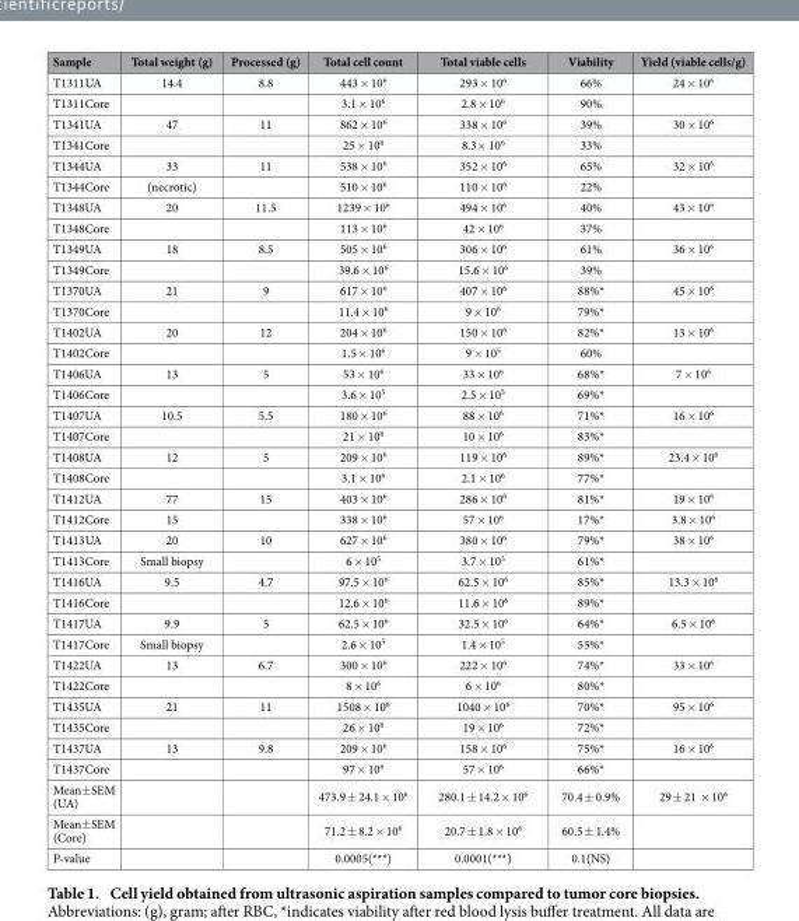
<table><thead><tr><td>Sample</td><td>Total weight (g)</td><td>Processed (g)</td><td>Total cell count</td><td>Total viable cells</td><td>Viability</td><td>Yield (viable cells/g)</td></tr></thead><tbody><tr><td>T1311UA</td><td>14.4</td><td>8.8</td><td>443 × 10<sup>6</sup></td><td>293 × 10<sup>6</sup></td><td>66%</td><td>24 × 10<sup>6</sup></td></tr><tr><td>T1311Core</td><td></td><td></td><td>3.1 × 10<sup>6</sup></td><td>2.8 × 10<sup>6</sup></td><td>90%</td><td></td></tr><tr><td>T1341UA</td><td>47</td><td>11</td><td>862 × 10<sup>6</sup></td><td>338 × 10<sup>6</sup></td><td>39%</td><td>30 × 10<sup>6</sup></td></tr><tr><td>T1341Core</td><td></td><td></td><td>25 × 10<sup>6</sup></td><td>8.3× 10<sup>6</sup></td><td>33%</td><td></td></tr><tr><td>T1344UA</td><td>33</td><td>11</td><td>538 × 10<sup>6</sup></td><td>352 × 10<sup>6</sup></td><td>65%</td><td>32 × 10<sup>6</sup></td></tr><tr><td>T1344Core</td><td>(necrotic)</td><td></td><td>510 × 10<sup>6</sup></td><td>110 × 10<sup>6</sup></td><td>22%</td><td></td></tr><tr><td>T1348UA</td><td>20</td><td>11.5</td><td>1239 × 10<sup>6</sup></td><td>494 × 10<sup>6</sup></td><td>40%</td><td>43 × 10<sup>6</sup></td></tr><tr><td>T1348Core</td><td></td><td></td><td>113 × 10<sup>6</sup></td><td>42 × 10<sup>6</sup></td><td>37%</td><td></td></tr><tr><td>T1349UA</td><td>18</td><td>8.5</td><td>505 × 10<sup>6</sup></td><td>306 × 10<sup>6</sup></td><td>61%</td><td>36 × 10<sup>6</sup></td></tr><tr><td>T1349Core</td><td></td><td></td><td>39.6 × 10<sup>6</sup></td><td>15.6 × 10<sup>6</sup></td><td>39%</td><td></td></tr><tr><td>T1370UA</td><td>21</td><td>9</td><td>617 × 10<sup>6</sup></td><td>407 × 10<sup>6</sup></td><td>88%*</td><td>45 × 10<sup>6</sup></td></tr><tr><td>T1370Core</td><td></td><td></td><td>11.4 × 10<sup>6</sup></td><td>9 × 10<sup>6</sup></td><td>79%*</td><td></td></tr><tr><td>T1402UA</td><td>20</td><td>12</td><td>204 × 10<sup>6</sup></td><td>150 × 10<sup>6</sup></td><td>82%*</td><td>13 × 10<sup>6</sup></td></tr><tr><td>T1402Core</td><td></td><td></td><td>1.5 × 10<sup>6</sup></td><td>9 × 10<sup>5</sup></td><td>60%</td><td></td></tr><tr><td>T1406UA</td><td>13</td><td>5</td><td>53 × 10<sup>6</sup></td><td>33 × 10<sup>6</sup></td><td>68%*</td><td>7 × 10<sup>6</sup></td></tr><tr><td>T1406Core</td><td></td><td></td><td>3.6 × 10<sup>5</sup></td><td>2.5 × 10<sup>5</sup></td><td>69%*</td><td></td></tr><tr><td>T1407UA</td><td>10.5</td><td>5.5</td><td>180 × 10<sup>6</sup></td><td>88 × 10<sup>6</sup></td><td>71%*</td><td>16 × 10<sup>6</sup></td></tr><tr><td>T1407Core</td><td></td><td></td><td>21 × 10<sup>6</sup></td><td>10 × 10<sup>6</sup></td><td>83%*</td><td></td></tr><tr><td>T1408UA</td><td>12</td><td>5</td><td>209 × 10<sup>6</sup></td><td>119 × 10<sup>6</sup></td><td>89%*</td><td>23.4 × 10<sup>6</sup></td></tr><tr><td>T1408Core</td><td></td><td></td><td>3.1 × 10<sup>6</sup></td><td>2.1 × 10<sup>6</sup></td><td>77%*</td><td></td></tr><tr><td>T1412UA</td><td>77</td><td>15</td><td>403 × 10<sup>6</sup></td><td>286 × 10<sup>6</sup></td><td>81%*</td><td>19 × 10<sup>6</sup></td></tr><tr><td>T1412Core</td><td>15</td><td></td><td>338 × 10<sup>6</sup></td><td>57 × 10<sup>6</sup></td><td>17%*</td><td>3.8 × 10<sup>6</sup></td></tr><tr><td>T1413UA</td><td>20</td><td>10</td><td>627 × 10<sup>6</sup></td><td>380 × 10<sup>6</sup></td><td>79%*</td><td>38 × 10<sup>6</sup></td></tr><tr><td>T1413Core</td><td>Small biopsy</td><td></td><td>6 × 10<sup>5</sup></td><td>3.7 × 10<sup>5</sup></td><td>61%*</td><td></td></tr><tr><td>T1416UA</td><td>9.5</td><td>4.7</td><td>97.5 × 10<sup>6</sup></td><td>62.5 × 10<sup>6</sup></td><td>85%*</td><td>13.3 × 10<sup>6</sup></td></tr><tr><td>T1416Core</td><td></td><td></td><td>12.6 × 10<sup>6</sup></td><td>11.6 × 10<sup>6</sup></td><td>89%*</td><td></td></tr><tr><td>T1417UA</td><td>9.9</td><td>5</td><td>62.5 × 10<sup>6</sup></td><td>32.5 × 10<sup>6</sup></td><td>64%*</td><td>6.5 × 10<sup>6</sup></td></tr><tr><td>T1417Core</td><td>Small biopsy</td><td></td><td>2.6 × 10<sup>5</sup></td><td>1.4 × 10<sup>5</sup></td><td>55%*</td><td></td></tr><tr><td>T1422UA</td><td>13</td><td>6.7</td><td>300 × 10<sup>6</sup></td><td>222 × 10<sup>6</sup></td><td>74%*</td><td>33 × 10<sup>6</sup></td></tr><tr><td>T1422Core</td><td></td><td></td><td>8 × 10<sup>6</sup></td><td>6 × 10<sup>6</sup></td><td>80%*</td><td></td></tr><tr><td>T1435UA</td><td>21</td><td>11</td><td>1508 × 10<sup>6</sup></td><td>1040 × 10<sup>6</sup></td><td>70%*</td><td>95 × 10<sup>6</sup></td></tr><tr><td>T1435Core</td><td></td><td></td><td>26 × 10<sup>6</sup></td><td>19 × 10<sup>6</sup></td><td>72%*</td><td></td></tr><tr><td>T1437UA</td><td>13</td><td>9.8</td><td>209 × 10<sup>6</sup></td><td>158 × 10<sup>6</sup></td><td>75%*</td><td>16 × 10<sup>6</sup></td></tr><tr><td>T1437Core</td><td></td><td></td><td>97 × 10<sup>6</sup></td><td>57 × 10<sup>6</sup></td><td>66%*</td><td></td></tr><tr><td>Mean± SEM (UA)</td><td></td><td></td><td>473.9 ± 24.1 × 10<sup>6</sup></td><td>280.1 ± 14.2 × 10<sup>6</sup></td><td>70.4 ± 0.9%</td><td>29 ± 21 × 10<sup>6</sup></td></tr><tr><td>Mean± SEM (Core)</td><td></td><td></td><td>71.2 ± 8.2 × 10<sup>6</sup></td><td>20.7 ± 1.8 × 10<sup>6</sup></td><td>60.5 ± 1.4%</td><td></td></tr><tr><td>P-value</td><td></td><td></td><td>0.0005(***)</td><td>0.0001(***)</td><td>0.1(NS)</td><td></td></tr></tbody></table>